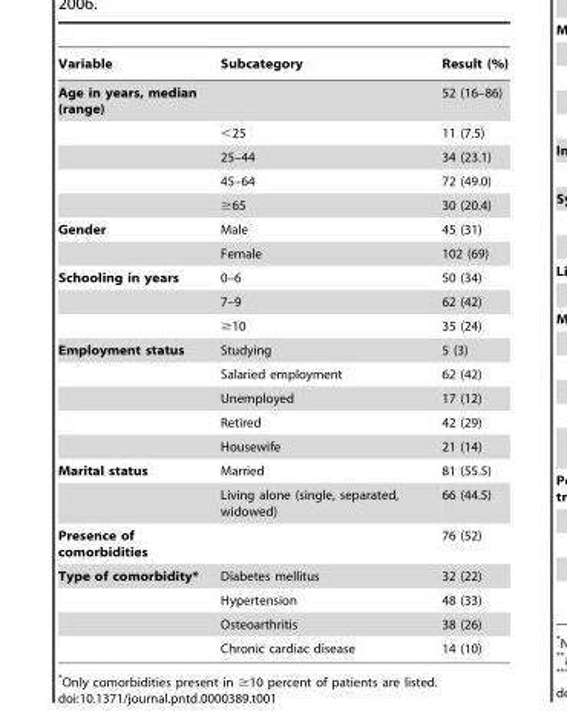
<table><thead><tr><td>Variable</td><td>Subcategory</td><td>Result (%)</td></tr></thead><tbody><tr><td rowspan="5">Age in years, median (range)</td><td></td><td>52 (16–86)</td></tr><tr><td>&lt;25</td><td>11 (7.5)</td></tr><tr><td>25–44</td><td>34 (23.1)</td></tr><tr><td>45–64</td><td>72 (49.0)</td></tr><tr><td>≥65</td><td>30 (20.4)</td></tr><tr><td rowspan="2">Gender</td><td>Male</td><td>45 (31)</td></tr><tr><td>Female</td><td>102 (69)</td></tr><tr><td rowspan="3">Schooling in years</td><td>0–6</td><td>50 (34)</td></tr><tr><td>7–9</td><td>62 (42)</td></tr><tr><td>≥10</td><td>35 (24)</td></tr><tr><td rowspan="5">Employment status</td><td>Studying</td><td>5 (3)</td></tr><tr><td>Salaried employment</td><td>62 (42)</td></tr><tr><td>Unemployed</td><td>17 (12)</td></tr><tr><td>Retired</td><td>42 (29)</td></tr><tr><td>Housewife</td><td>21 (14)</td></tr><tr><td rowspan="2">Marital status</td><td>Married</td><td>81 (55.5)</td></tr><tr><td>Living alone (single, separated, widowed)</td><td>66 (44.5)</td></tr><tr><td>Presence of comorbidities</td><td></td><td>76 (52)</td></tr><tr><td rowspan="4">Type of comorbidity*</td><td>Diabetes mellitus</td><td>32 (22)</td></tr><tr><td>Hypertension</td><td>48 (33)</td></tr><tr><td>Osteoarthritis</td><td>38 (26)</td></tr><tr><td>Chronic cardiac disease</td><td>14 (10)</td></tr></tbody></table>